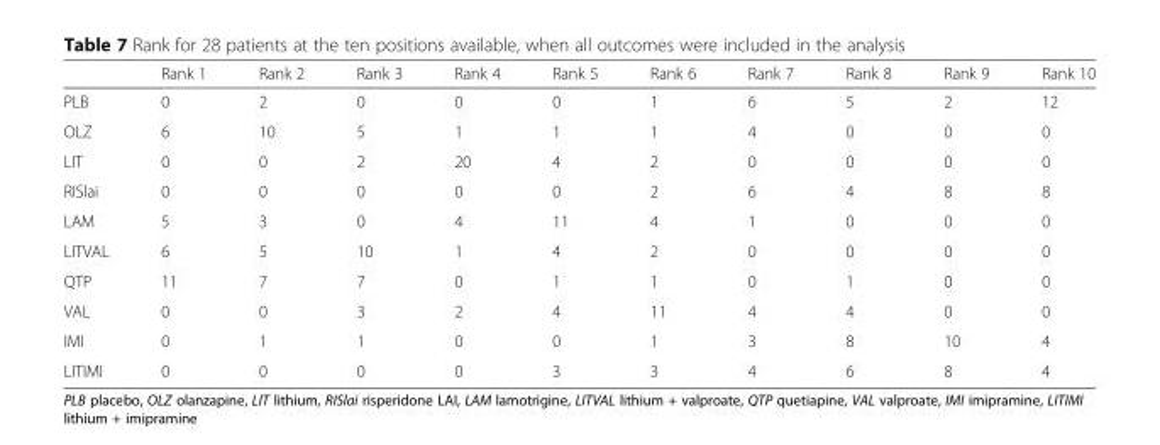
<table><thead><tr><td></td><td>Rank 1</td><td>Rank 2</td><td>Rank 3</td><td>Rank 4</td><td>Rank 5</td><td>Rank 6</td><td>Rank 7</td><td>Rank 8</td><td>Rank 9</td><td>Rank 10</td></tr></thead><tbody><tr><td>PLB</td><td>0</td><td>2</td><td>0</td><td>0</td><td>0</td><td>1</td><td>6</td><td>5</td><td>2</td><td>12</td></tr><tr><td>OLZ</td><td>6</td><td>10</td><td>5</td><td>1</td><td>1</td><td>1</td><td>4</td><td>0</td><td>0</td><td>0</td></tr><tr><td>LIT</td><td>0</td><td>0</td><td>2</td><td>20</td><td>4</td><td>2</td><td>0</td><td>0</td><td>0</td><td>0</td></tr><tr><td>RISlai</td><td>0</td><td>0</td><td>0</td><td>0</td><td>0</td><td>2</td><td>6</td><td>4</td><td>8</td><td>8</td></tr><tr><td>LAM</td><td>5</td><td>3</td><td>0</td><td>4</td><td>11</td><td>4</td><td>1</td><td>0</td><td>0</td><td>0</td></tr><tr><td>LITVAL</td><td>6</td><td>5</td><td>10</td><td>1</td><td>4</td><td>2</td><td>0</td><td>0</td><td>0</td><td>0</td></tr><tr><td>QTP</td><td>11</td><td>7</td><td>7</td><td>0</td><td>1</td><td>1</td><td>0</td><td>1</td><td>0</td><td>0</td></tr><tr><td>VAL</td><td>0</td><td>0</td><td>3</td><td>2</td><td>4</td><td>11</td><td>4</td><td>4</td><td>0</td><td>0</td></tr><tr><td>IMI</td><td>0</td><td>1</td><td>1</td><td>0</td><td>0</td><td>1</td><td>3</td><td>8</td><td>10</td><td>4</td></tr><tr><td>LITIMI</td><td>0</td><td>0</td><td>0</td><td>0</td><td>3</td><td>3</td><td>4</td><td>6</td><td>8</td><td>4</td></tr></tbody></table>